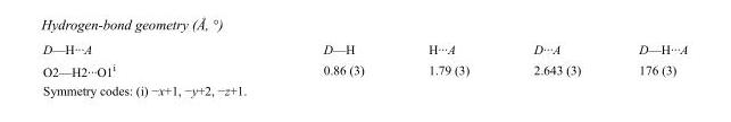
<table><tbody><tr><td>D—H···A</td><td>D—H</td><td>H···A</td><td>D···A</td><td>D—H···A</td></tr><tr><td>O2—H2···O1<sup>i</sup></td><td>0.86 (3)</td><td>1.79 (3)</td><td>2.643 (3)</td><td>176 (3)</td></tr></tbody></table>